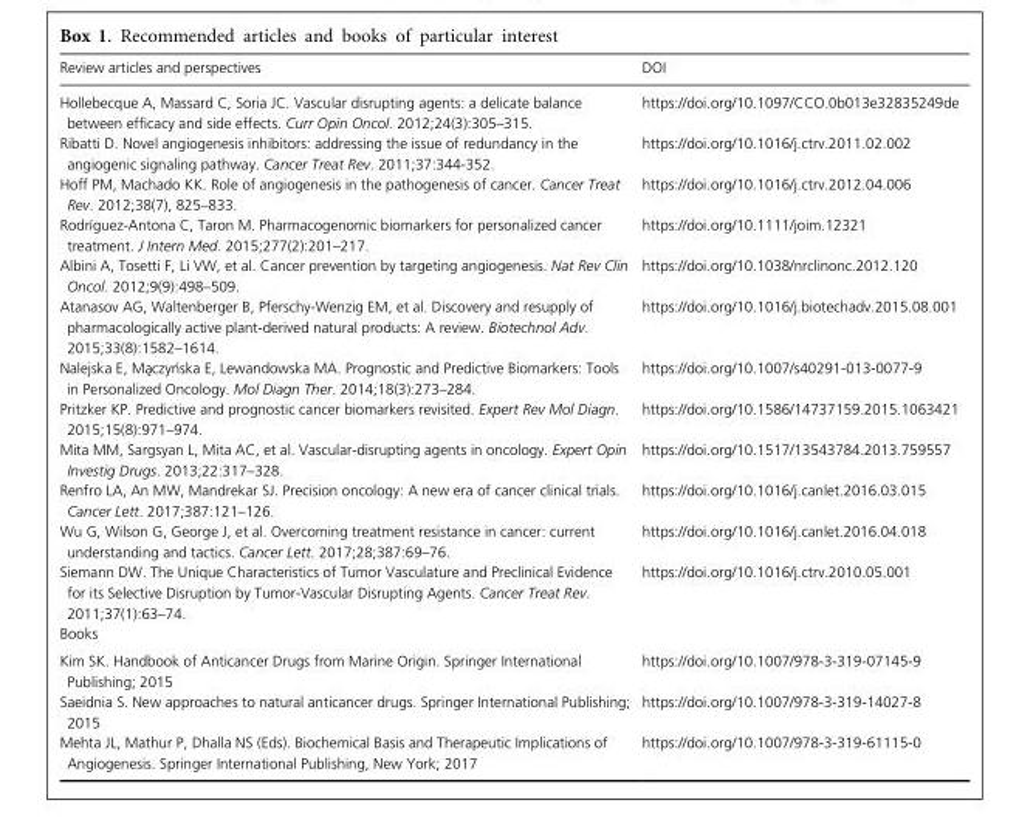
<table><thead><tr><td>Review articles and perspectives</td><td>DOI</td></tr></thead><tbody><tr><td>Hollebecque A, Massard C, Soria JC. Vascular disrupting agents: a delicate balance between efficacy and side effects. Curr Opin Oncol. 2012;24(3):305–315.</td><td>https://doi.org/10.1097/CCO.0b013e32835249de</td></tr><tr><td>Ribatti D. Novel angiogenesis inhibitors: addressing the issue of redundancy in the angiogenic signaling pathway. Cancer Treat Rev. 2011;37:344- 352.</td><td>https://doi.org/10.1016/j.ctrv.2011.02.002</td></tr><tr><td>Hoff PM, Machado KK. Role of angiogenesis in the pathogenesis of cancer. Cancer Treat Rev. 2012;38(7), 825–833.</td><td>https://doi.org/10.1016/j.ctrv.2012.04.006</td></tr><tr><td>Rodríguez- Antona C, Taron M. Pharmacogenomic biomarkers for personalized cancer treatment. J Intern Med. 2015;277(2):201–217.</td><td>https://doi.org/10.1111/joim.12321</td></tr><tr><td>Albini A, Tosetti F, Li VW, et al. Cancer prevention by targeting angiogenesis. Nat Rev Clin Oncol. 2012;9(9):498–509.</td><td>https://doi.org/10.1038/nrclinonc.2012.120</td></tr><tr><td>Atanasov AG, Waltenberger B, Pferschy- Wenzig EM, et al. Discovery and resupply of pharmacologically active plant- derived natural products: A review. Biotechnol Adv. 2015;33(8):1582–1614.</td><td>https://doi.org/10.1016/j.biotechadv.2015.08.001</td></tr><tr><td>Nalejska E, Ma¸czyn´ska E, Lewandowska MA. Prognostic and Predictive Biomarkers: Tools in Personalized Oncology. Mol Diagn Ther. 2014;18(3):273–284.</td><td>https://doi.org/10.1007/s40291-013-0077-9</td></tr><tr><td>Pritzker KP. Predictive and prognostic cancer biomarkers revisited. Expert Rev Mol Diagn. 2015;15(8):971–974.</td><td>https://doi.org/10.1586/14737159.2015.1063421</td></tr><tr><td>Mita MM, Sargsyan L, Mita AC, et al. Vascular- disrupting agents in oncology. Expert Opin Investig Drugs. 2013;22:317–328.</td><td>https://doi.org/10.1517/13543784.2013.759557</td></tr><tr><td>Renfro LA, An MW, Mandrekar SJ. Precision oncology: A new era of cancer clinical trials. Cancer Lett. 2017;387:121–126.</td><td>https://doi.org/10.1016/j.canlet.2016.03.015</td></tr><tr><td>Wu G, Wilson G, George J, et al. Overcoming treatment resistance in cancer: current understanding and tactics. Cancer Lett. 2017;28;387:69–76.</td><td>https://doi.org/10.1016/j.canlet.2016.04.018</td></tr><tr><td>Siemann DW. The Unique Characteristics of Tumor Vasculature and Preclinical Evidence for its Selective Disruption by Tumor- Vascular Disrupting Agents. Cancer Treat Rev. 2011;37(1):63–74.</td><td>https://doi.org/10.1016/j.ctrv.2010.05.001</td></tr><tr><td colspan="2">Books</td></tr><tr><td>Kim SK. Handbook of Anticancer Drugs from Marine Origin. Springer International Publishing; 2015</td><td>https://doi.org/10.1007/978-3-319-07145-9</td></tr><tr><td>Saeidnia S. New approaches to natural anticancer drugs. Springer International Publishing; 2015</td><td>https://doi.org/10.1007/978-3-319-14027-8</td></tr><tr><td>Mehta JL, Mathur P, Dhalla NS (Eds). Biochemical Basis and Therapeutic Implications of Angiogenesis. Springer International Publishing, New York; 2017</td><td>https://doi.org/10.1007/978-3-319-61115-0</td></tr></tbody></table>